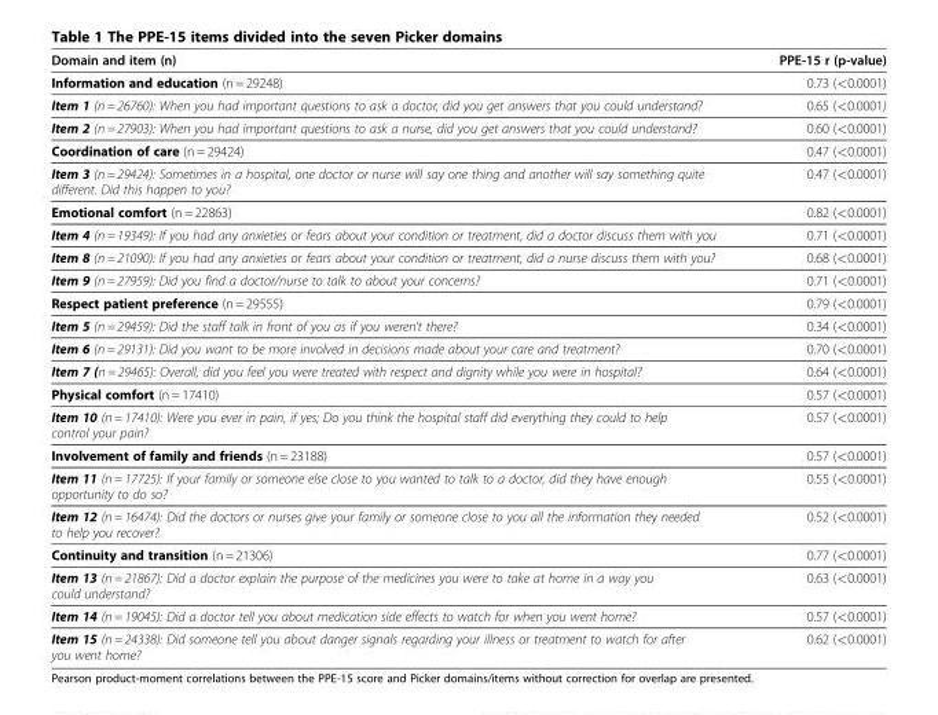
<table><thead><tr><td>Domain and item (n)</td><td>PPE-15 r (p-value)</td></tr></thead><tbody><tr><td>Information and education (n = 29248)</td><td>0.73 (&lt;0.0001)</td></tr><tr><td>Item 1 (n = 26760): When you had important questions to ask a doctor, did you get answers that you could understand?</td><td>0.65 (&lt;0.0001)</td></tr><tr><td>Item 2 (n = 27903): When you had important questions to ask a nurse, did you get answers that you could understand?</td><td>0.60 (&lt;0.0001)</td></tr><tr><td>Coordination of care (n = 29424)</td><td>0.47 (&lt;0.0001)</td></tr><tr><td>Item 3 (n = 29424): Sometimes in a hospital, one doctor or nurse will say one thing and another will say something quite different. Did this happen to you?</td><td>0.47 (&lt;0.0001)</td></tr><tr><td>Emotional comfort (n = 22863)</td><td>0.82 (&lt;0.0001)</td></tr><tr><td>Item 4 (n = 19349): If you had any anxieties or fears about your condition or treatment, did a doctor discuss them with you</td><td>0.71 (&lt;0.0001)</td></tr><tr><td>Item 8 (n = 21090): If you had any anxieties or fears about your condition or treatment, did a nurse discuss them with you?</td><td>0.68 (&lt;0.0001)</td></tr><tr><td>Item 9 (n = 27959): Did you find a doctor/nurse to talk to about your concerns?</td><td>0.71 (&lt;0.0001)</td></tr><tr><td>Respect patient preference (n = 29555)</td><td>0.79 (&lt;0.0001)</td></tr><tr><td>Item 5 (n = 29459): Did the staff talk in front of you as if you weren’t there?</td><td>0.34 (&lt;0.0001)</td></tr><tr><td>Item 6 (n = 29131): Did you want to be more involved in decisions made about your care and treatment?</td><td>0.70 (&lt;0.0001)</td></tr><tr><td>Item 7 (n = 29465): Overall, did you feel you were treated with respect and dignity while you were in hospital?</td><td>0.64 (&lt;0.0001)</td></tr><tr><td>Physical comfort (n = 17410)</td><td>0.57 (&lt;0.0001)</td></tr><tr><td>Item 10 (n = 17410): Were you ever in pain, if yes; Do you think the hospital staff did everything they could to help control your pain?</td><td>0.57 (&lt;0.0001)</td></tr><tr><td>Involvement of family and friends (n = 23188)</td><td>0.57 (&lt;0.0001)</td></tr><tr><td>Item 11 (n = 17725): If your family or someone else close to you wanted to talk to a doctor, did they have enough opportunity to do so?</td><td>0.55 (&lt;0.0001)</td></tr><tr><td>Item 12 (n = 16474): Did the doctors or nurses give your family or someone close to you all the information they needed to help you recover?</td><td>0.52 (&lt;0.0001)</td></tr><tr><td>Continuity and transition (n = 21306)</td><td>0.77 (&lt;0.0001)</td></tr><tr><td>Item 13 (n = 21867): Did a doctor explain the purpose of the medicines you were to take at home in a way you could understand?</td><td>0.63 (&lt;0.0001)</td></tr><tr><td>Item 14 (n = 19045): Did a doctor tell you about medication side effects to watch for when you went home?</td><td>0.57 (&lt;0.0001)</td></tr><tr><td>Item 15 (n = 24338): Did someone tell you about danger signals regarding your illness or treatment to watch for after you went home?</td><td>0.62 (&lt;0.0001)</td></tr></tbody></table>